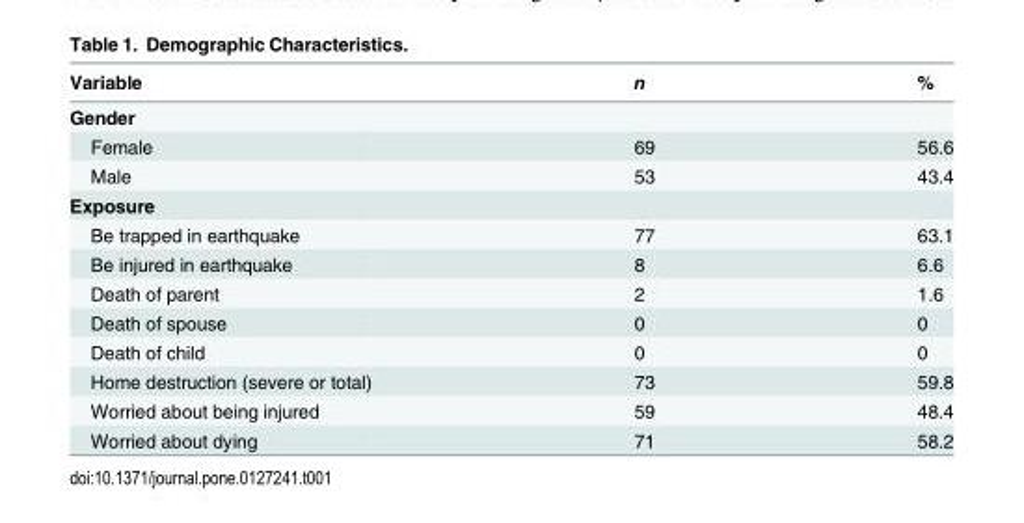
<table><thead><tr><td>Variable</td><td>n</td><td>%</td></tr></thead><tbody><tr><td colspan="3">Gender</td></tr><tr><td>Female</td><td>69</td><td>56.6</td></tr><tr><td>Male</td><td>53</td><td>43.4</td></tr><tr><td colspan="3">Exposure</td></tr><tr><td>Be trapped in earthquake</td><td>77</td><td>63.1</td></tr><tr><td>Be injured in earthquake</td><td>8</td><td>6.6</td></tr><tr><td>Death of parent</td><td>2</td><td>1.6</td></tr><tr><td>Death of spouse</td><td>0</td><td>0</td></tr><tr><td>Death of child</td><td>0</td><td>0</td></tr><tr><td>Home destruction (severe or total)</td><td>73</td><td>59.8</td></tr><tr><td>Worried about being injured</td><td>59</td><td>48.4</td></tr><tr><td>Worried about dying</td><td>71</td><td>58.2</td></tr></tbody></table>